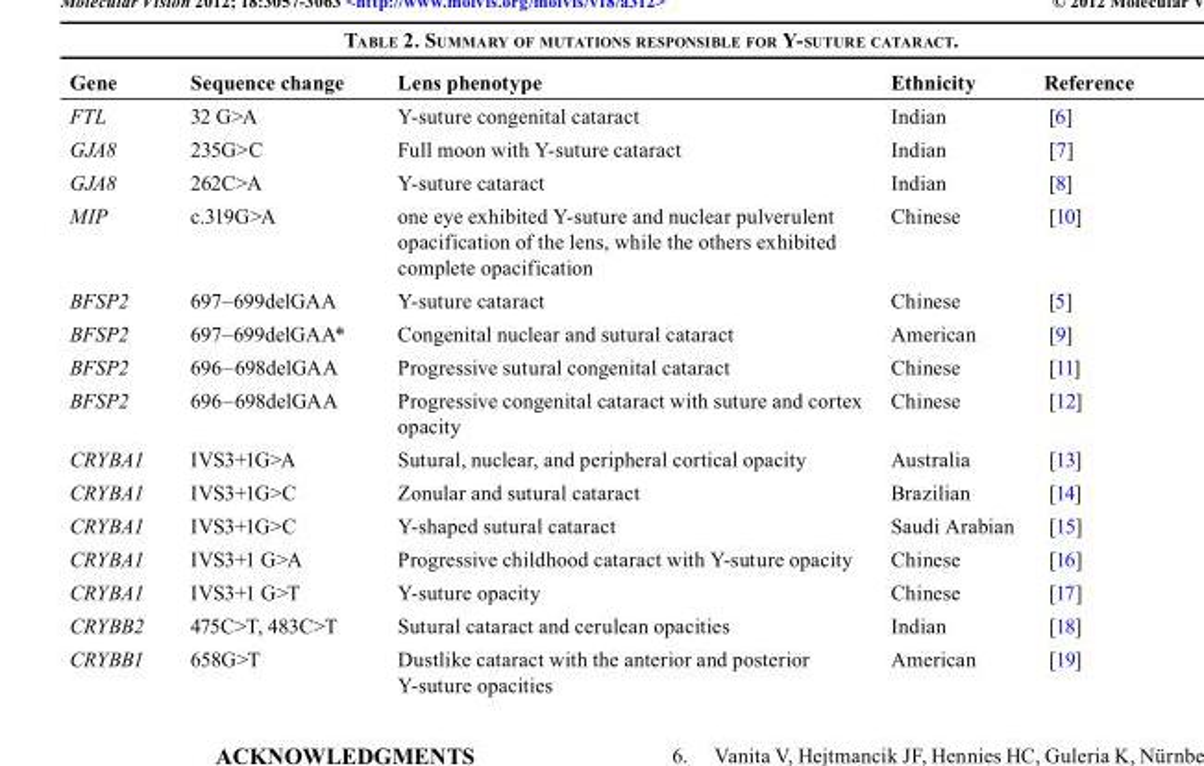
<table><thead><tr><td>Gene</td><td>Sequence change</td><td>Lens phenotype</td><td>Ethnicity</td><td>Reference</td></tr></thead><tbody><tr><td>FTL</td><td>32 G&gt;A</td><td>Y-suture congenital cataract</td><td>Indian</td><td>[6]</td></tr><tr><td>GJA8</td><td>235G&gt;C</td><td>Full moon with Y-suture cataract</td><td>Indian</td><td>[7]</td></tr><tr><td>GJA8</td><td>262C&gt;A</td><td>Y-suture cataract</td><td>Indian</td><td>[8]</td></tr><tr><td>MIP</td><td>c.319G&gt;A</td><td>one eye exhibited Y-suture and nuclear pulverulent opacification of the lens, while the others exhibited complete opacification</td><td>Chinese</td><td>[10]</td></tr><tr><td>BFSP2</td><td>697–699delGAA</td><td>Y-suture cataract</td><td>Chinese</td><td>[5]</td></tr><tr><td>BFSP2</td><td>697–699delGAA*</td><td>Congenital nuclear and sutural cataract</td><td>American</td><td>[9]</td></tr><tr><td>BFSP2</td><td>696–698delGAA</td><td>Progressive sutural congenital cataract</td><td>Chinese</td><td>[11]</td></tr><tr><td>BFSP2</td><td>696–698delGAA</td><td>Progressive congenital cataract with suture and cortex opacity</td><td>Chinese</td><td>[12]</td></tr><tr><td>CRYBA1</td><td>IVS3+1G&gt;A</td><td>Sutural, nuclear, and peripheral cortical opacity</td><td>Australia</td><td>[13]</td></tr><tr><td>CRYBA1</td><td>IVS3+1G&gt;C</td><td>Zonular and sutural cataract</td><td>Brazilian</td><td>[14]</td></tr><tr><td>CRYBA1</td><td>IVS3+1G&gt;C</td><td>Y-shaped sutural cataract</td><td>Saudi Arabian</td><td>[15]</td></tr><tr><td>CRYBA1</td><td>IVS3+1 G&gt;A</td><td>Progressive childhood cataract with Y-suture opacity</td><td>Chinese</td><td>[16]</td></tr><tr><td>CRYBA1</td><td>IVS3+1 G&gt;T</td><td>Y-suture opacity</td><td>Chinese</td><td>[17]</td></tr><tr><td>CRYBB2</td><td>475C&gt;T, 483C&gt;T</td><td>Sutural cataract and cerulean opacities</td><td>Indian</td><td>[18]</td></tr><tr><td>CRYBB1</td><td>658G&gt;T</td><td>Dustlike cataract with the anterior and posterior Y-suture opacities</td><td>American</td><td>[19]</td></tr></tbody></table>